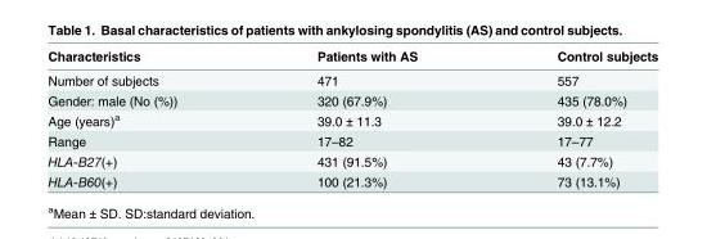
<table><thead><tr><td>Characteristics</td><td>Patients with AS</td><td>Control subjects</td></tr></thead><tbody><tr><td>Number of subjects</td><td>471</td><td>557</td></tr><tr><td>Gender: male (No (%))</td><td>320 (67.9%)</td><td>435 (78.0%)</td></tr><tr><td>Age (years)<sup>a</sup></td><td>39.0 ± 11.3</td><td>39.0 ± 12.2</td></tr><tr><td>Range</td><td>17–82</td><td>17–77</td></tr><tr><td>HLA-B27(+)</td><td>431 (91.5%)</td><td>43 (7.7%)</td></tr><tr><td>HLA-B60(+)</td><td>100 (21.3%)</td><td>73 (13.1%)</td></tr></tbody></table>